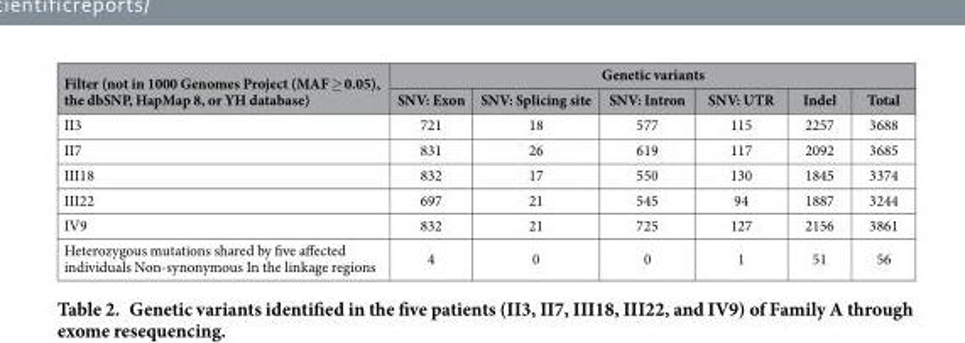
<table><thead><tr><td rowspan="2">Filter (not in 1000 Genomes Project (MAF ≥ 0.05), the dbSNP, HapMap 8, or YH database)</td><td colspan="6">Genetic variants</td></tr><tr><td>SNV: Exon</td><td>SNV: Splicing site</td><td>SNV: Intron</td><td>SNV: UTR</td><td>Indel</td><td>Total</td></tr></thead><tbody><tr><td>II3</td><td>721</td><td>18</td><td>577</td><td>115</td><td>2257</td><td>3688</td></tr><tr><td>II7</td><td>831</td><td>26</td><td>619</td><td>117</td><td>2092</td><td>3685</td></tr><tr><td>III18</td><td>832</td><td>17</td><td>550</td><td>130</td><td>1845</td><td>3374</td></tr><tr><td>III22</td><td>697</td><td>21</td><td>545</td><td>94</td><td>1887</td><td>3244</td></tr><tr><td>IV9</td><td>832</td><td>21</td><td>725</td><td>127</td><td>2156</td><td>3861</td></tr><tr><td>Heterozygous mutations shared by five affected individuals Non-synonymous In the linkage regions</td><td>4</td><td>0</td><td>0</td><td>1</td><td>51</td><td>56</td></tr></tbody></table>